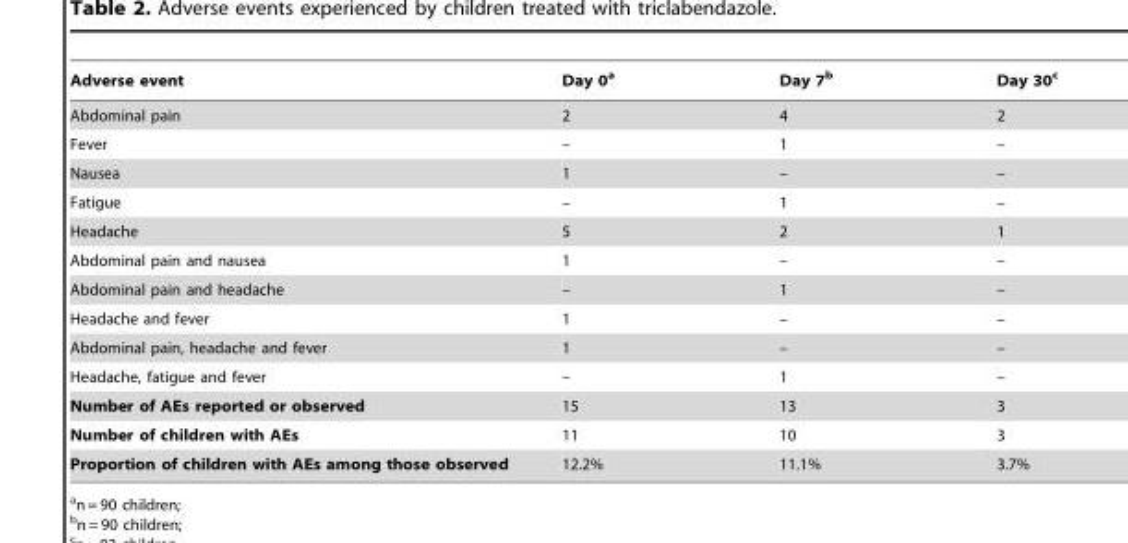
<table><thead><tr><td>Adverse event</td><td>Day 0<sup>a</sup></td><td>Day 7<sup>b</sup></td><td>Day 30<sup>c</sup></td></tr></thead><tbody><tr><td>Abdominal pain</td><td>2</td><td>4</td><td>2</td></tr><tr><td>Fever</td><td>–</td><td>1</td><td>–</td></tr><tr><td>Nausea</td><td>1</td><td>–</td><td>–</td></tr><tr><td>Fatigue</td><td>–</td><td>1</td><td>–</td></tr><tr><td>Headache</td><td>5</td><td>2</td><td>1</td></tr><tr><td>Abdominal pain and nausea</td><td>1</td><td>–</td><td>–</td></tr><tr><td>Abdominal pain and headache</td><td>–</td><td>1</td><td>–</td></tr><tr><td>Headache and fever</td><td>1</td><td>–</td><td>–</td></tr><tr><td>Abdominal pain, headache and fever</td><td>1</td><td>–</td><td>–</td></tr><tr><td>Headache, fatigue and fever</td><td>–</td><td>1</td><td>–</td></tr><tr><td>Number of AEs reported or observed</td><td>15</td><td>13</td><td>3</td></tr><tr><td>Number of children with AEs</td><td>11</td><td>10</td><td>3</td></tr><tr><td>Proportion of children with AEs among those observed</td><td>12.2%</td><td>11.1%</td><td>3.7%</td></tr></tbody></table>